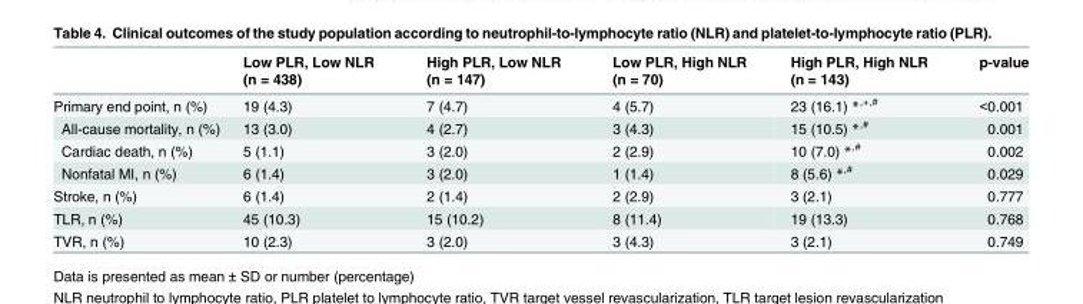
<table><thead><tr><td></td><td>Low PLR, Low NLR (n = 438)</td><td>High PLR, Low NLR (n = 147)</td><td>Low PLR, High NLR (n = 70)</td><td>High PLR, High NLR (n = 143)</td><td>p-value</td></tr></thead><tbody><tr><td>Primary end point, n (%)</td><td>19 (4.3)</td><td>7 (4.7)</td><td>4 (5.7)</td><td>23 (16.1) *<sup>,+,#</sup></td><td>&lt;0.001</td></tr><tr><td>All-cause mortality, n (%)</td><td>13 (3.0)</td><td>4 (2.7)</td><td>3 (4.3)</td><td>15 (10.5) *<sup>,#</sup></td><td>0.001</td></tr><tr><td>Cardiac death, n (%)</td><td>5 (1.1)</td><td>3 (2.0)</td><td>2 (2.9)</td><td>10 (7.0) *<sup>,#</sup></td><td>0.002</td></tr><tr><td>Nonfatal MI, n (%)</td><td>6 (1.4)</td><td>3 (2.0)</td><td>1 (1.4)</td><td>8 (5.6) *<sup>,#</sup></td><td>0.029</td></tr><tr><td>Stroke, n (%)</td><td>6 (1.4)</td><td>2 (1.4)</td><td>2 (2.9)</td><td>3 (2.1)</td><td>0.777</td></tr><tr><td>TLR, n (%)</td><td>45 (10.3)</td><td>15 (10.2)</td><td>8 (11.4)</td><td>19 (13.3)</td><td>0.768</td></tr><tr><td>TVR, n (%)</td><td>10 (2.3)</td><td>3 (2.0)</td><td>3 (4.3)</td><td>3 (2.1)</td><td>0.749</td></tr></tbody></table>